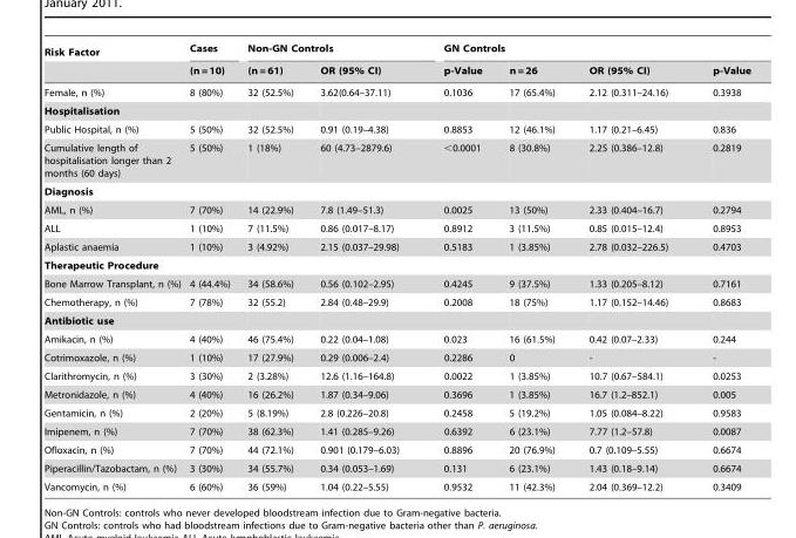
<table><thead><tr><td rowspan="2">Risk Factor</td><td rowspan="2">Cases (n = 10)</td><td colspan="2">Non-GN Controls</td><td colspan="4">GN Controls</td></tr><tr><td>(n = 61)</td><td>OR (95% CI)</td><td>p-Value</td><td>n = 26</td><td>OR (95% CI)</td><td>p-Value</td></tr></thead><tbody><tr><td>Female, n (%)</td><td>8 (80%)</td><td>32 (52.5%)</td><td>3.62(0.64–37.11)</td><td>0.1036</td><td>17 (65.4%)</td><td>2.12 (0.311–24.16)</td><td>0.3938</td></tr><tr><td colspan="8">Hospitalisation</td></tr><tr><td>Public Hospital, n (%)</td><td>5 (50%)</td><td>32 (52.5%)</td><td>0.91 (0.19–4.38)</td><td>0.8853</td><td>12 (46.1%)</td><td>1.17 (0.21–6.45)</td><td>0.836</td></tr><tr><td>Cumulative length of hospitalisation longer than 2 months (60 days)</td><td>5 (50%)</td><td>1 (18%)</td><td>60 (4.73–2879.6)</td><td>&lt;0.0001</td><td>8 (30.8%)</td><td>2.25 (0.386–12.8)</td><td>0.2819</td></tr><tr><td colspan="8">Diagnosis</td></tr><tr><td>AML, n (%)</td><td>7 (70%)</td><td>14 (22.9%)</td><td>7.8 (1.49–51.3)</td><td>0.0025</td><td>13 (50%)</td><td>2.33 (0.404–16.7)</td><td>0.2794</td></tr><tr><td>ALL</td><td>1 (10%)</td><td>7 (11.5%)</td><td>0.86 (0.017–8.17)</td><td>0.8912</td><td>3 (11.5%)</td><td>0.85 (0.015–12.4)</td><td>0.8953</td></tr><tr><td>Aplastic anaemia</td><td>1 (10%)</td><td>3 (4.92%)</td><td>2.15 (0.037–29.98)</td><td>0.5183</td><td>1 (3.85%)</td><td>2.78 (0.032–226.5)</td><td>0.4703</td></tr><tr><td colspan="8">Therapeutic Procedure</td></tr><tr><td>Bone Marrow Transplant, n (%)</td><td>4 (44.4%)</td><td>34 (58.6%)</td><td>0.56 (0.102–2.95)</td><td>0.4245</td><td>9 (37.5%)</td><td>1.33 (0.205–8.12)</td><td>0.7161</td></tr><tr><td>Chemotherapy, n (%)</td><td>7 (78%)</td><td>32 (55.2)</td><td>2.84 (0.48–29.9)</td><td>0.2008</td><td>18 (75%)</td><td>1.17 (0.152–14.46)</td><td>0.8683</td></tr><tr><td colspan="8">Antibiotic use</td></tr><tr><td>Amikacin, n (%)</td><td>4 (40%)</td><td>46 (75.4%)</td><td>0.22 (0.04–1.08)</td><td>0.023</td><td>16 (61.5%)</td><td>0.42 (0.07–2.33)</td><td>0.244</td></tr><tr><td>Cotrimoxazole, n (%)</td><td>1 (10%)</td><td>17 (27.9%)</td><td>0.29 (0.006–2.4)</td><td>0.2286</td><td>0</td><td>-</td><td>-</td></tr><tr><td>Clarithromycin, n (%)</td><td>3 (30%)</td><td>2 (3.28%)</td><td>12.6 (1.16–164.8)</td><td>0.0022</td><td>1 (3.85%)</td><td>10.7 (0.67–584.1)</td><td>0.0253</td></tr><tr><td>Metronidazole, n (%)</td><td>4 (40%)</td><td>16 (26.2%)</td><td>1.87 (0.34–9.06)</td><td>0.3696</td><td>1 (3.85%)</td><td>16.7 (1.2–852.1)</td><td>0.005</td></tr><tr><td>Gentamicin, n (%)</td><td>2 (20%)</td><td>5 (8.19%)</td><td>2.8 (0.226–20.8)</td><td>0.2458</td><td>5 (19.2%)</td><td>1.05 (0.084–8.22)</td><td>0.9583</td></tr><tr><td>Imipenem, n (%)</td><td>7 (70%)</td><td>38 (62.3%)</td><td>1.41 (0.285–9.26)</td><td>0.6392</td><td>6 (23.1%)</td><td>7.77 (1.2–57.8)</td><td>0.0087</td></tr><tr><td>Ofloxacin, n (%)</td><td>7 (70%)</td><td>44 (72.1%)</td><td>0.901 (0.179–6.03)</td><td>0.8896</td><td>20 (76.9%)</td><td>0.7 (0.109–5.55)</td><td>0.6674</td></tr><tr><td>Piperacillin/Tazobactam, n (%)</td><td>3 (30%)</td><td>34 (55.7%)</td><td>0.34 (0.053–1.69)</td><td>0.131</td><td>6 (23.1%)</td><td>1.43 (0.18–9.14)</td><td>0.6674</td></tr><tr><td>Vancomycin, n (%)</td><td>6 (60%)</td><td>36 (59%)</td><td>1.04 (0.22–5.55)</td><td>0.9532</td><td>11 (42.3%)</td><td>2.04 (0.369–12.2)</td><td>0.3409</td></tr></tbody></table>